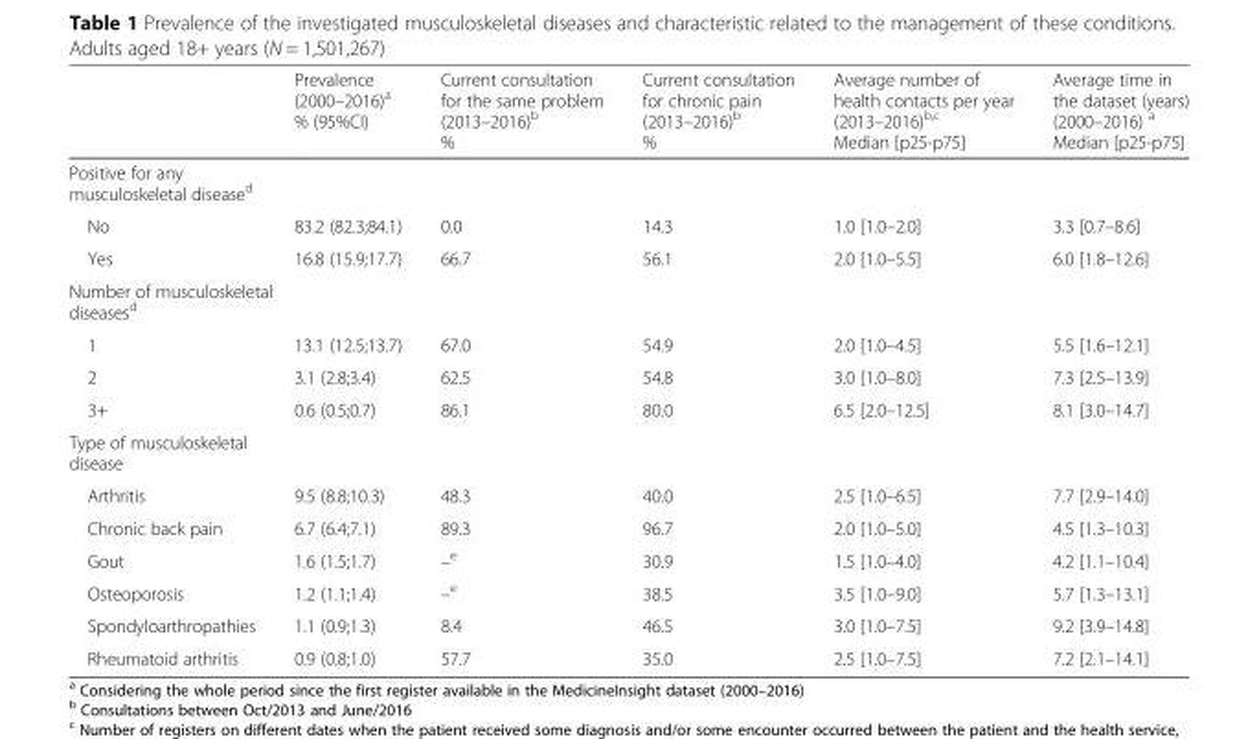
<table><thead><tr><td></td><td>Prevalence (2000–2016)<sup>a</sup> % (95%CI)</td><td>Current consultation for the same problem (2013–2016)<sup>b</sup> %</td><td>Current consultation for chronic pain (2013–2016)<sup>b</sup> %</td><td>Average number of health contacts per year (2013–2016)<sup>b,c</sup> Median [p25-p75]</td><td>Average time in the dataset (years) (2000–2016) <sup>a</sup> Median [p25-p75]</td></tr></thead><tbody><tr><td colspan="6">Positive for any musculoskeletal disease<sup>d</sup></td></tr><tr><td>No</td><td>83.2 (82.3;84.1)</td><td>0.0</td><td>14.3</td><td>1.0 [1.0–2.0]</td><td>3.3 [0.7–8.6]</td></tr><tr><td>Yes</td><td>16.8 (15.9;17.7)</td><td>66.7</td><td>56.1</td><td>2.0 [1.0–5.5]</td><td>6.0 [1.8–12.6]</td></tr><tr><td colspan="6">Number of musculoskeletal diseases<sup>d</sup></td></tr><tr><td>1</td><td>13.1 (12.5;13.7)</td><td>67.0</td><td>54.9</td><td>2.0 [1.0–4.5]</td><td>5.5 [1.6–12.1]</td></tr><tr><td>2</td><td>3.1 (2.8;3.4)</td><td>62.5</td><td>54.8</td><td>3.0 [1.0–8.0]</td><td>7.3 [2.5–13.9]</td></tr><tr><td>3+</td><td>0.6 (0.5;0.7)</td><td>86.1</td><td>80.0</td><td>6.5 [2.0–12.5]</td><td>8.1 [3.0–14.7]</td></tr><tr><td colspan="6">Type of musculoskeletal disease</td></tr><tr><td>Arthritis</td><td>9.5 (8.8;10.3)</td><td>48.3</td><td>40.0</td><td>2.5 [1.0–6.5]</td><td>7.7 [2.9–14.0]</td></tr><tr><td>Chronic back pain</td><td>6.7 (6.4;7.1)</td><td>89.3</td><td>96.7</td><td>2.0 [1.0–5.0]</td><td>4.5 [1.3–10.3]</td></tr><tr><td>Gout</td><td>1.6 (1.5;1.7)</td><td>–e</td><td>30.9</td><td>1.5 [1.0–4.0]</td><td>4.2 [1.1–10.4]</td></tr><tr><td>Osteoporosis</td><td>1.2 (1.1;1.4)</td><td>–e</td><td>38.5</td><td>3.5 [1.0–9.0]</td><td>5.7 [1.3–13.1]</td></tr><tr><td>Spondyloarthropathies</td><td>1.1 (0.9;1.3)</td><td>8.4</td><td>46.5</td><td>3.0 [1.0–7.5]</td><td>9.2 [3.9–14.8]</td></tr><tr><td>Rheumatoid arthritis</td><td>0.9 (0.8;1.0)</td><td>57.7</td><td>35.0</td><td>2.5 [1.0–7.5]</td><td>7.2 [2.1–14.1]</td></tr></tbody></table>